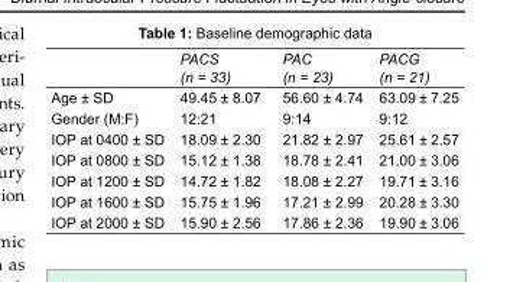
<table><thead><tr><td></td><td>PACS (n = 33)</td><td>PAC (n = 23)</td><td>PACG (n = 21)</td></tr></thead><tbody><tr><td>Age ± SD</td><td>49.45 ± 8.07</td><td>56.60 ± 4.74</td><td>63.09 ± 7.25</td></tr><tr><td>Gender (M:F)</td><td>12:21</td><td>9:14</td><td>9:12</td></tr><tr><td>IOP at 0400 ± SD</td><td>18.09 ± 2.30</td><td>21.82 ± 2.97</td><td>25.61 ± 2.57</td></tr><tr><td>IOP at 0800 ± SD</td><td>15.12 ± 1.38</td><td>18.78 ± 2.41</td><td>21.00 ± 3.06</td></tr><tr><td>IOP at 1200 ± SD</td><td>14.72 ± 1.82</td><td>18.08 ± 2.27</td><td>19.71 ± 3.16</td></tr><tr><td>IOP at 1600 ± SD</td><td>15.75 ± 1.96</td><td>17.21 ± 2.99</td><td>20.28 ± 3.30</td></tr><tr><td>IOP at 2000 ± SD</td><td>15.90 ± 2.56</td><td>17.86 ± 2.36</td><td>19.90 ± 3.06</td></tr></tbody></table>